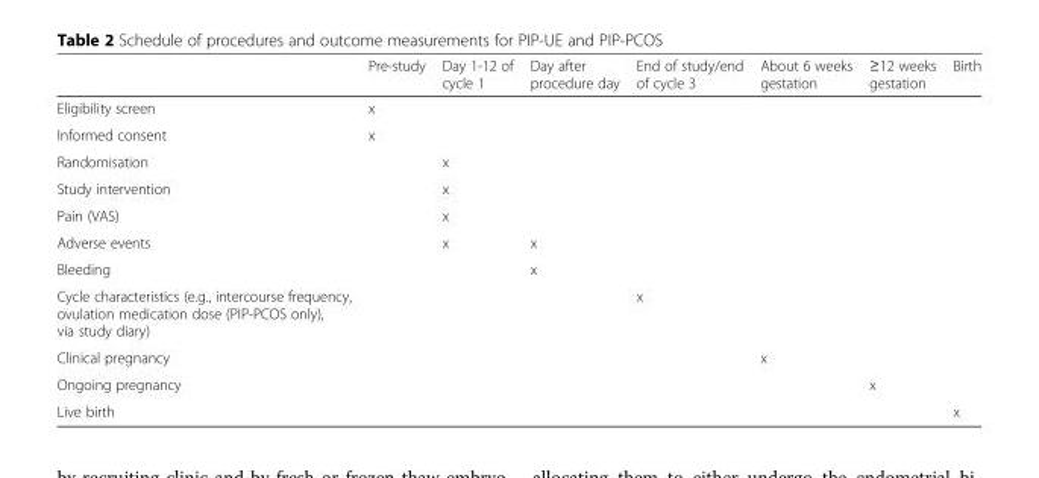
<table><thead><tr><td></td><td>Pre-study</td><td>Day 1-12 of cycle 1</td><td>Day after procedure day</td><td>End of study/end of cycle 3</td><td>About 6 weeks gestation</td><td>≥12 weeks gestation</td><td>Birth</td></tr></thead><tbody><tr><td>Eligibility screen</td><td>x</td><td></td><td></td><td></td><td></td><td></td><td></td></tr><tr><td>Informed consent</td><td>x</td><td></td><td></td><td></td><td></td><td></td><td></td></tr><tr><td>Randomisation</td><td></td><td>x</td><td></td><td></td><td></td><td></td><td></td></tr><tr><td>Study intervention</td><td></td><td>x</td><td></td><td></td><td></td><td></td><td></td></tr><tr><td>Pain (VAS)</td><td></td><td>x</td><td></td><td></td><td></td><td></td><td></td></tr><tr><td>Adverse events</td><td></td><td>x</td><td>x</td><td></td><td></td><td></td><td></td></tr><tr><td>Bleeding</td><td></td><td></td><td>x</td><td></td><td></td><td></td><td></td></tr><tr><td>Cycle characteristics (e.g., intercourse frequency, ovulation medication dose (PIP-PCOS only), via study diary)</td><td></td><td></td><td></td><td>x</td><td></td><td></td><td></td></tr><tr><td>Clinical pregnancy</td><td></td><td></td><td></td><td></td><td>x</td><td></td><td></td></tr><tr><td>Ongoing pregnancy</td><td></td><td></td><td></td><td></td><td></td><td>x</td><td></td></tr><tr><td>Live birth</td><td></td><td></td><td></td><td></td><td></td><td></td><td>x</td></tr></tbody></table>